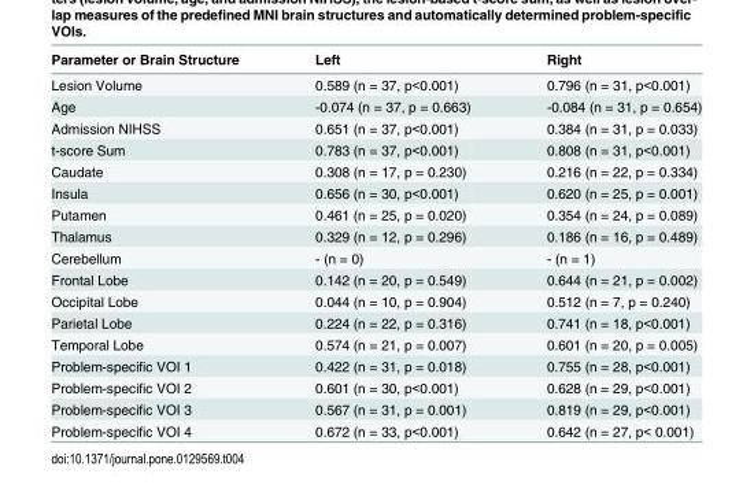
<table><thead><tr><td>Parameter or Brain Structure</td><td>Left</td><td>Right</td></tr></thead><tbody><tr><td>Lesion Volume</td><td>0.589 (n = 37, p&lt;0.001)</td><td>0.796 (n = 31, p&lt;0.001)</td></tr><tr><td>Age</td><td>-0.074 (n = 37, p = 0.663)</td><td>-0.084 (n = 31, p = 0.654)</td></tr><tr><td>Admission NIHSS</td><td>0.651 (n = 37, p&lt;0.001)</td><td>0.384 (n = 31, p = 0.033)</td></tr><tr><td>t-score Sum</td><td>0.783 (n = 37, p&lt;0.001)</td><td>0.808 (n = 31, p&lt;0.001)</td></tr><tr><td>Caudate</td><td>0.308 (n = 17, p = 0.230)</td><td>0.216 (n = 22, p = 0.334)</td></tr><tr><td>Insula</td><td>0.656 (n = 30, p&lt;0.001)</td><td>0.620 (n = 25, p = 0.001)</td></tr><tr><td>Putamen</td><td>0.461 (n = 25, p = 0.020)</td><td>0.354 (n = 24, p = 0.089)</td></tr><tr><td>Thalamus</td><td>0.329 (n = 12, p = 0.296)</td><td>0.186 (n = 16, p = 0.489)</td></tr><tr><td>Cerebellum</td><td>- (n = 0)</td><td>- (n = 1)</td></tr><tr><td>Frontal Lobe</td><td>0.142 (n = 20, p = 0.549)</td><td>0.644 (n = 21, p = 0.002)</td></tr><tr><td>Occipital Lobe</td><td>0.044 (n = 10, p = 0.904)</td><td>0.512 (n = 7, p = 0.240)</td></tr><tr><td>Parietal Lobe</td><td>0.224 (n = 22, p = 0.316)</td><td>0.741 (n = 18, p&lt;0.001)</td></tr><tr><td>Temporal Lobe</td><td>0.574 (n = 21, p = 0.007)</td><td>0.601 (n = 20, p = 0.005)</td></tr><tr><td>Problem-specific VOI 1</td><td>0.422 (n = 31, p = 0.018)</td><td>0.755 (n = 28, p&lt;0.001)</td></tr><tr><td>Problem-specific VOI 2</td><td>0.601 (n = 30, p&lt;0.001)</td><td>0.628 (n = 29, p&lt;0.001)</td></tr><tr><td>Problem-specific VOI 3</td><td>0.567 (n = 31, p = 0.001)</td><td>0.819 (n = 29, p&lt;0.001)</td></tr><tr><td>Problem-specific VOI 4</td><td>0.672 (n = 33, p&lt;0.001)</td><td>0.642 (n = 27, p&lt; 0.001)</td></tr></tbody></table>